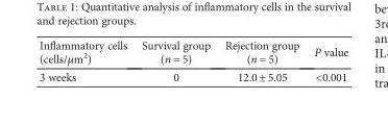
<table><thead><tr><td>Inflammatory cells (cells/μm<sup>2</sup>)</td><td>Survival group (n = 5)</td><td>Rejection group (n = 5)</td><td>P value</td></tr></thead><tbody><tr><td>3 weeks</td><td>0</td><td>12.0 ± 5.05</td><td>&lt;0.001</td></tr></tbody></table>